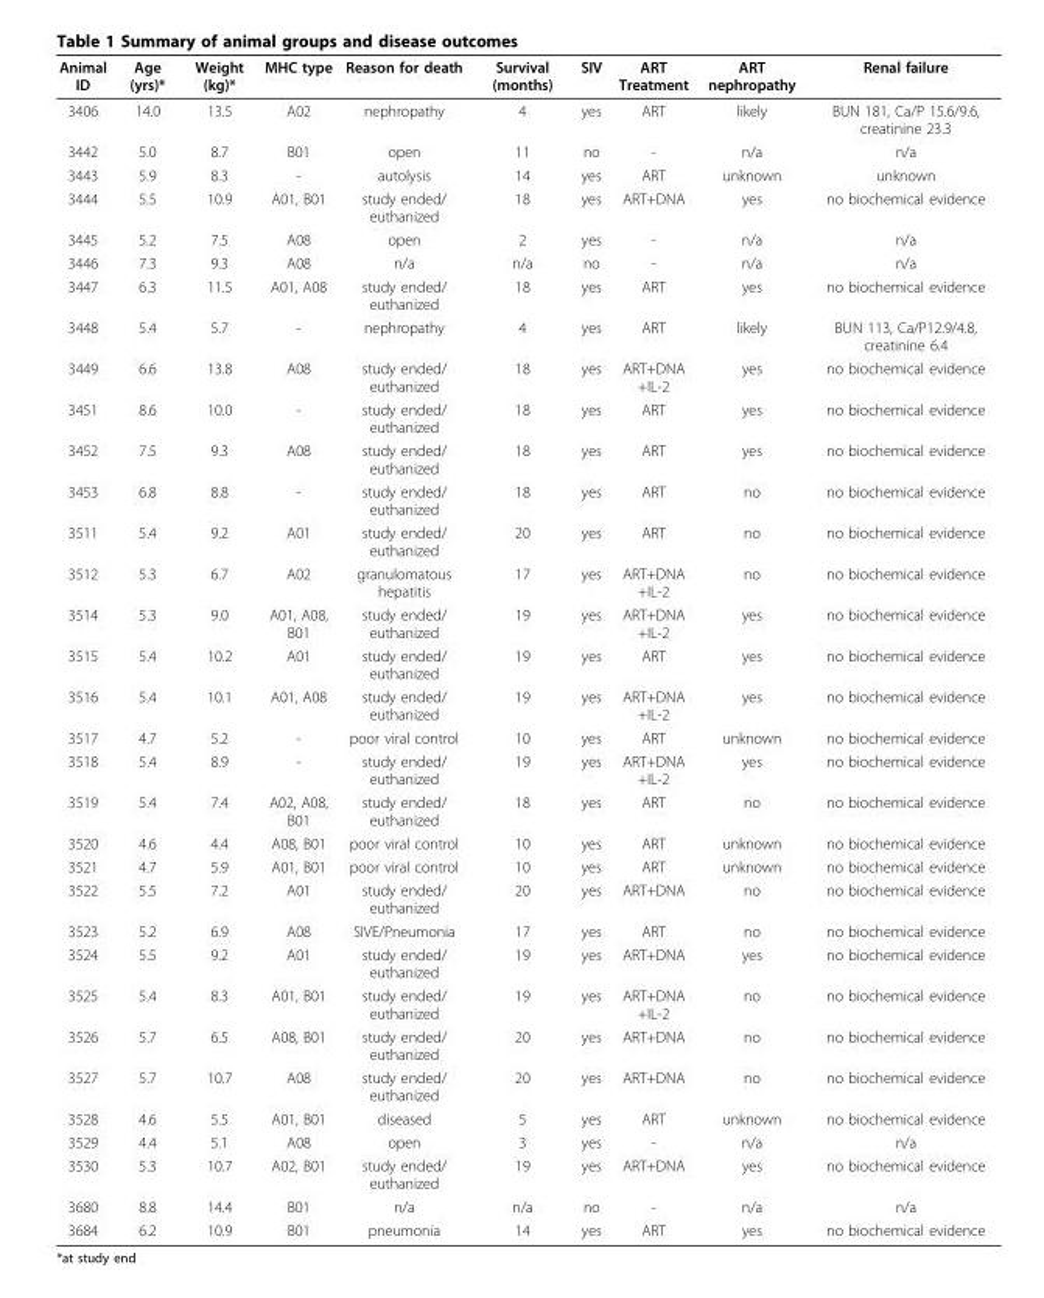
<table><thead><tr><td>Animal ID</td><td>Age (yrs)*</td><td>Weight (kg)*</td><td>MHC type</td><td>Reason for death</td><td>Survival (months)</td><td>SIV</td><td>ART Treatment</td><td>ART nephropathy</td><td>Renal failure</td></tr></thead><tbody><tr><td>3406</td><td>14.0</td><td>13.5</td><td>A02</td><td>nephropathy</td><td>4</td><td>yes</td><td>ART</td><td>likely</td><td>BUN 181, Ca/P 15.6/9.6, creatinine 23.3</td></tr><tr><td>3442</td><td>5.0</td><td>8.7</td><td>B01</td><td>open</td><td>11</td><td>no</td><td>-</td><td>n/a</td><td>n/a</td></tr><tr><td>3443</td><td>5.9</td><td>8.3</td><td>-</td><td>autolysis</td><td>14</td><td>yes</td><td>ART</td><td>unknown</td><td>unknown</td></tr><tr><td>3444</td><td>5.5</td><td>10.9</td><td>A01, B01</td><td>study ended/ euthanized</td><td>18</td><td>yes</td><td>ART+DNA</td><td>yes</td><td>no biochemical evidence</td></tr><tr><td>3445</td><td>5.2</td><td>7.5</td><td>A08</td><td>open</td><td>2</td><td>yes</td><td>-</td><td>n/a</td><td>n/a</td></tr><tr><td>3446</td><td>7.3</td><td>9.3</td><td>A08</td><td>n/a</td><td>n/a</td><td>no</td><td>-</td><td>n/a</td><td>n/a</td></tr><tr><td>3447</td><td>6.3</td><td>11.5</td><td>A01, A08</td><td>study ended/ euthanized</td><td>18</td><td>yes</td><td>ART</td><td>yes</td><td>no biochemical evidence</td></tr><tr><td>3448</td><td>5.4</td><td>5.7</td><td>-</td><td>nephropathy</td><td>4</td><td>yes</td><td>ART</td><td>likely</td><td>BUN 113, Ca/P12.9/4.8, creatinine 6.4</td></tr><tr><td>3449</td><td>6.6</td><td>13.8</td><td>A08</td><td>study ended/ euthanized</td><td>18</td><td>yes</td><td>ART+DNA +IL-2</td><td>yes</td><td>no biochemical evidence</td></tr><tr><td>3451</td><td>8.6</td><td>10.0</td><td>-</td><td>study ended/ euthanized</td><td>18</td><td>yes</td><td>ART</td><td>yes</td><td>no biochemical evidence</td></tr><tr><td>3452</td><td>7.5</td><td>9.3</td><td>A08</td><td>study ended/ euthanized</td><td>18</td><td>yes</td><td>ART</td><td>yes</td><td>no biochemical evidence</td></tr><tr><td>3453</td><td>6.8</td><td>8.8</td><td>-</td><td>study ended/ euthanized</td><td>18</td><td>yes</td><td>ART</td><td>no</td><td>no biochemical evidence</td></tr><tr><td>3511</td><td>5.4</td><td>9.2</td><td>A01</td><td>study ended/ euthanized</td><td>20</td><td>yes</td><td>ART</td><td>no</td><td>no biochemical evidence</td></tr><tr><td>3512</td><td>5.3</td><td>6.7</td><td>A02</td><td>granulomatous hepatitis</td><td>17</td><td>yes</td><td>ART+DNA +IL-2</td><td>no</td><td>no biochemical evidence</td></tr><tr><td>3514</td><td>5.3</td><td>9.0</td><td>A01, A08, B01</td><td>study ended/ euthanized</td><td>19</td><td>yes</td><td>ART+DNA +IL-2</td><td>yes</td><td>no biochemical evidence</td></tr><tr><td>3515</td><td>5.4</td><td>10.2</td><td>A01</td><td>study ended/ euthanized</td><td>19</td><td>yes</td><td>ART</td><td>yes</td><td>no biochemical evidence</td></tr><tr><td>3516</td><td>5.4</td><td>10.1</td><td>A01, A08</td><td>study ended/ euthanized</td><td>19</td><td>yes</td><td>ART+DNA +IL-2</td><td>yes</td><td>no biochemical evidence</td></tr><tr><td>3517</td><td>4.7</td><td>5.2</td><td>-</td><td>poor viral control</td><td>10</td><td>yes</td><td>ART</td><td>unknown</td><td>no biochemical evidence</td></tr><tr><td>3518</td><td>5.4</td><td>8.9</td><td>-</td><td>study ended/ euthanized</td><td>19</td><td>yes</td><td>ART+DNA +IL-2</td><td>yes</td><td>no biochemical evidence</td></tr><tr><td>3519</td><td>5.4</td><td>7.4</td><td>A02, A08, B01</td><td>study ended/ euthanized</td><td>18</td><td>yes</td><td>ART</td><td>no</td><td>no biochemical evidence</td></tr><tr><td>3520</td><td>4.6</td><td>4.4</td><td>A08, B01</td><td>poor viral control</td><td>10</td><td>yes</td><td>ART</td><td>unknown</td><td>no biochemical evidence</td></tr><tr><td>3521</td><td>4.7</td><td>5.9</td><td>A01, B01</td><td>poor viral control</td><td>10</td><td>yes</td><td>ART</td><td>unknown</td><td>no biochemical evidence</td></tr><tr><td>3522</td><td>5.5</td><td>7.2</td><td>A01</td><td>study ended/ euthanized</td><td>20</td><td>yes</td><td>ART+DNA</td><td>no</td><td>no biochemical evidence</td></tr><tr><td>3523</td><td>5.2</td><td>6.9</td><td>A08</td><td>SIVE/Pneumonia</td><td>17</td><td>yes</td><td>ART</td><td>no</td><td>no biochemical evidence</td></tr><tr><td>3524</td><td>5.5</td><td>9.2</td><td>A01</td><td>study ended/ euthanized</td><td>19</td><td>yes</td><td>ART+DNA</td><td>yes</td><td>no biochemical evidence</td></tr><tr><td>3525</td><td>5.4</td><td>8.3</td><td>A01, B01</td><td>study ended/ euthanized</td><td>19</td><td>yes</td><td>ART+DNA +IL-2</td><td>no</td><td>no biochemical evidence</td></tr><tr><td>3526</td><td>5.7</td><td>6.5</td><td>A08, B01</td><td>study ended/ euthanized</td><td>20</td><td>yes</td><td>ART+DNA</td><td>no</td><td>no biochemical evidence</td></tr><tr><td>3527</td><td>5.7</td><td>10.7</td><td>A08</td><td>study ended/ euthanized</td><td>20</td><td>yes</td><td>ART+DNA</td><td>no</td><td>no biochemical evidence</td></tr><tr><td>3528</td><td>4.6</td><td>5.5</td><td>A01, B01</td><td>diseased</td><td>5</td><td>yes</td><td>ART</td><td>unknown</td><td>no biochemical evidence</td></tr><tr><td>3529</td><td>4.4</td><td>5.1</td><td>A08</td><td>open</td><td>3</td><td>yes</td><td>-</td><td>n/a</td><td>n/a</td></tr><tr><td>3530</td><td>5.3</td><td>10.7</td><td>A02, B01</td><td>study ended/ euthanized</td><td>19</td><td>yes</td><td>ART+DNA</td><td>yes</td><td>no biochemical evidence</td></tr><tr><td>3680</td><td>8.8</td><td>14.4</td><td>B01</td><td>n/a</td><td>n/a</td><td>no</td><td>-</td><td>n/a</td><td>n/a</td></tr><tr><td>3684</td><td>6.2</td><td>10.9</td><td>B01</td><td>pneumonia</td><td>14</td><td>yes</td><td>ART</td><td>yes</td><td>no biochemical evidence</td></tr></tbody></table>